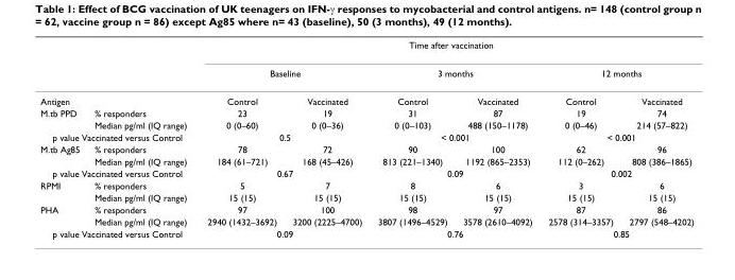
<table><thead><tr><td rowspan="2"></td><td rowspan="2"></td><td colspan="6">Time after vaccination</td></tr><tr><td colspan="2">Baseline</td><td colspan="2">3 months</td><td colspan="2">12 months</td></tr><tr><td colspan="2">Antigen</td><td>Control</td><td>Vaccinated</td><td>Control</td><td>Vaccinated</td><td>Control</td><td>Vaccinated</td></tr></thead><tbody><tr><td rowspan="2">M.tb PPD</td><td>% responders</td><td>23</td><td>19</td><td>31</td><td>87</td><td>19</td><td>74</td></tr><tr><td>Median pg/ml (IQ range)</td><td>0 (0–60)</td><td>0 (0–36)</td><td>0 (0–103)</td><td>488 (150–1178)</td><td>0 (0–46)</td><td>214 (57–822)</td></tr><tr><td colspan="2">p value Vaccinated versus Control</td><td colspan="2">0.5</td><td colspan="2">&lt; 0.001</td><td colspan="2">&lt; 0.001</td></tr><tr><td rowspan="2">M.tb Ag85</td><td>% responders</td><td>78</td><td>72</td><td>90</td><td>100</td><td>62</td><td>96</td></tr><tr><td>Median pg/ml (IQ range)</td><td>184 (61–721)</td><td>168 (45–426)</td><td>813 (221–1340)</td><td>1192 (865–2353)</td><td>112 (0–262)</td><td>808 (386–1865)</td></tr><tr><td colspan="2">p value Vaccinated versus Control</td><td colspan="2">0.67</td><td colspan="2">0.09</td><td colspan="2">0.002</td></tr><tr><td rowspan="2">RPMI</td><td>% responders</td><td>5</td><td>7</td><td>8</td><td>6</td><td>3</td><td>6</td></tr><tr><td>Median pg/ml (IQ range)</td><td>15 (15)</td><td>15 (15)</td><td>15 (15)</td><td>15 (15)</td><td>15 (15)</td><td>15 (15)</td></tr><tr><td rowspan="2">PHA</td><td>% responders</td><td>97</td><td>100</td><td>98</td><td>97</td><td>87</td><td>86</td></tr><tr><td>Median pg/ml (IQ range)</td><td>2940 (1432–3692)</td><td>3200 (2225–4700)</td><td>3807 (1496–4529)</td><td>3578 (2610–4092)</td><td>2578 (314–3357)</td><td>2797 (548–4202)</td></tr><tr><td colspan="2">p value Vaccinated versus Control</td><td colspan="2">0.09</td><td colspan="2">0.76</td><td colspan="2">0.85</td></tr></tbody></table>